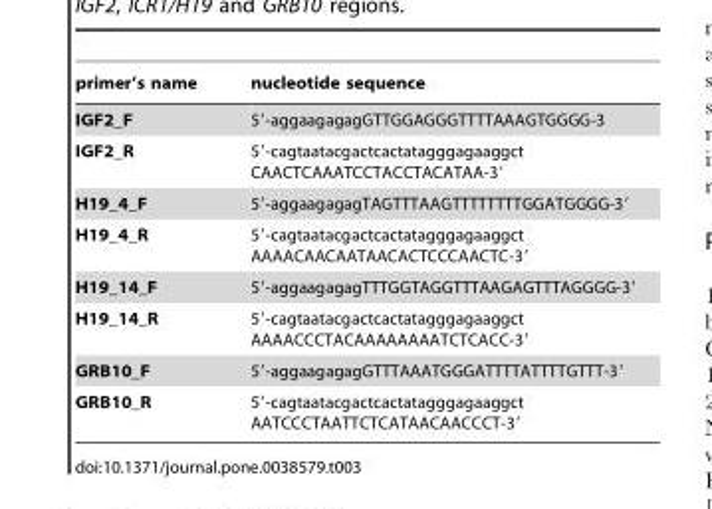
<table><thead><tr><td>primer’s name</td><td>nucleotide sequence</td></tr></thead><tbody><tr><td>IGF2_F</td><td>5′-aggaagagagGTTGGAGGGTTTTAAAGTGGGG-3</td></tr><tr><td>IGF2_R</td><td>5′-cagtaatacgactcactatagggagaaggct CAACTCAAATCCTACCTACATAA-3′</td></tr><tr><td>H19_4_F</td><td>5′-aggaagagagTAGTTTAAGTTTTTTTTGGATGGGG-3′</td></tr><tr><td>H19_4_R</td><td>5′-cagtaatacgactcactatagggagaaggct AAAACAACAATAACACTCCCAACTC-3′</td></tr><tr><td>H19_14_F</td><td>5′-aggaagagagTTTGGTAGGTTTAAGAGTTTAGGGG-3′</td></tr><tr><td>H19_14_R</td><td>5′-cagtaatacgactcactatagggagaaggct AAAACCCTACAAAAAAAATCTCACC-3′</td></tr><tr><td>GRB10_F</td><td>5′-aggaagagagGTTTAAATGGGATTTTATTTTGTTT-3′</td></tr><tr><td>GRB10_R</td><td>5′-cagtaatacgactcactatagggagaaggct AATCCCTAATTCTCATAACAACCCT-3′</td></tr></tbody></table>